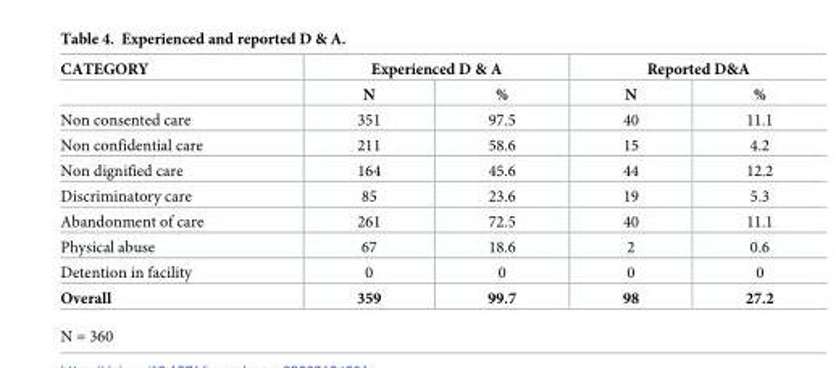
<table><thead><tr><td rowspan="2">CATEGORY</td><td colspan="2">Experienced D &amp; A</td><td colspan="2">Reported D&amp;A</td></tr><tr><td>N</td><td>%</td><td>N</td><td>%</td></tr></thead><tbody><tr><td>Non consented care</td><td>351</td><td>97.5</td><td>40</td><td>11.1</td></tr><tr><td>Non confidential care</td><td>211</td><td>58.6</td><td>15</td><td>4.2</td></tr><tr><td>Non dignified care</td><td>164</td><td>45.6</td><td>44</td><td>12.2</td></tr><tr><td>Discriminatory care</td><td>85</td><td>23.6</td><td>19</td><td>5.3</td></tr><tr><td>Abandonment of care</td><td>261</td><td>72.5</td><td>40</td><td>11.1</td></tr><tr><td>Physical abuse</td><td>67</td><td>18.6</td><td>2</td><td>0.6</td></tr><tr><td>Detention in facility</td><td>0</td><td>0</td><td>0</td><td>0</td></tr><tr><td>Overall</td><td>359</td><td>99.7</td><td>98</td><td>27.2</td></tr></tbody></table>